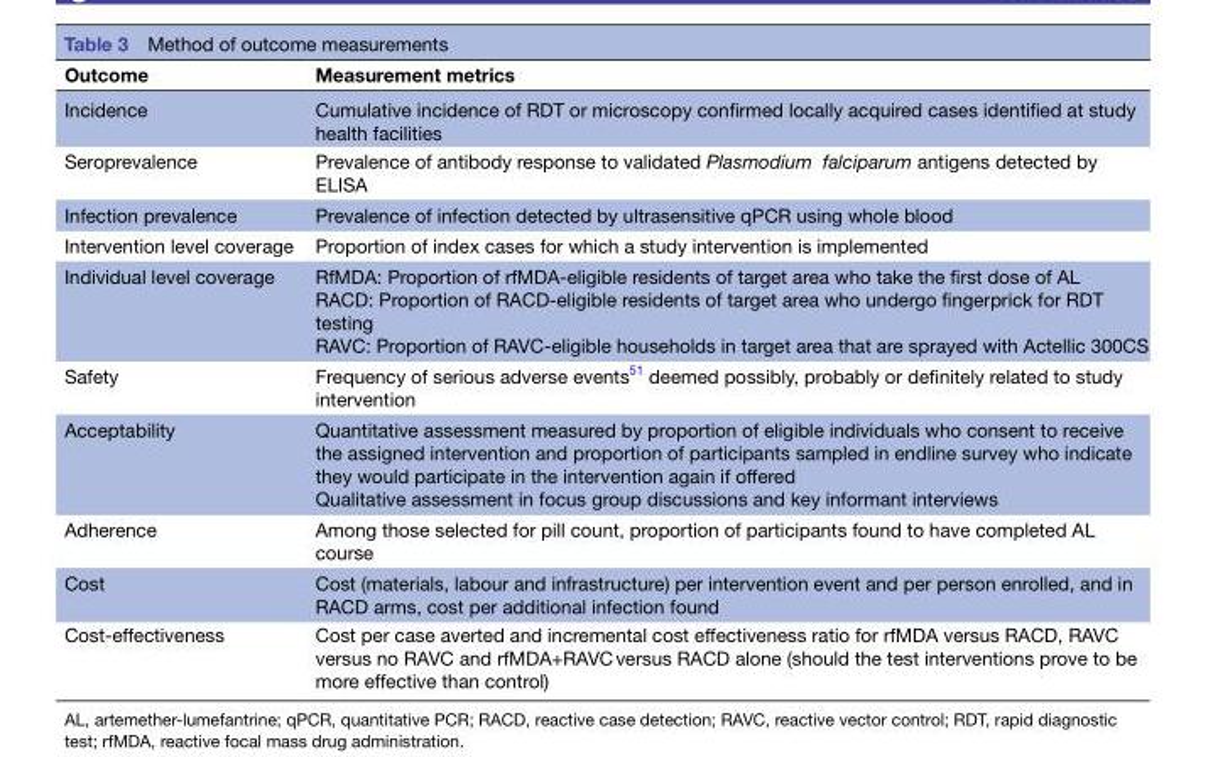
<table><thead><tr><td>Outcome</td><td>Measurement metrics</td></tr></thead><tbody><tr><td>Incidence</td><td>Cumulative incidence of RDT or microscopy confirmed locally acquired cases identified at study health facilities</td></tr><tr><td>Seroprevalence</td><td>Prevalence of antibody response to validated Plasmodium falciparum antigens detected by ELISA</td></tr><tr><td>Infection prevalence</td><td>Prevalence of infection detected by ultrasensitive qPCR using whole blood</td></tr><tr><td>Intervention level coverage</td><td>Proportion of index cases for which a study intervention is implemented</td></tr><tr><td>Individual level coverage</td><td>RfMDA: Proportion of rfMDA-eligible residents of target area who take the first dose of AL RACD: Proportion of RACD-eligible residents of target area who undergo fingerprick for RDT testing RAVC: Proportion of RAVC-eligible households in target area that are sprayed with Actellic 300CS</td></tr><tr><td>Safety</td><td>Frequency of serious adverse events<sup>51</sup> deemed possibly, probably or definitely related to study intervention</td></tr><tr><td>Acceptability</td><td>Quantitative assessment measured by proportion of eligible individuals who consent to receive the assigned intervention and proportion of participants sampled in endline survey who indicate they would participate in the intervention again if offered Qualitative assessment in focus group discussions and key informant interviews</td></tr><tr><td>Adherence</td><td>Among those selected for pill count, proportion of participants found to have completed AL course</td></tr><tr><td>Cost</td><td>Cost (materials, labour and infrastructure) per intervention event and per person enrolled, and in RACD arms, cost per additional infection found</td></tr><tr><td>Cost-effectiveness</td><td>Cost per case averted and incremental cost effectiveness ratio for rfMDA versus RACD, RAVC versus no RAVC and rfMDA+RAVC versus RACD alone (should the test interventions prove to be more effective than control)</td></tr></tbody></table>